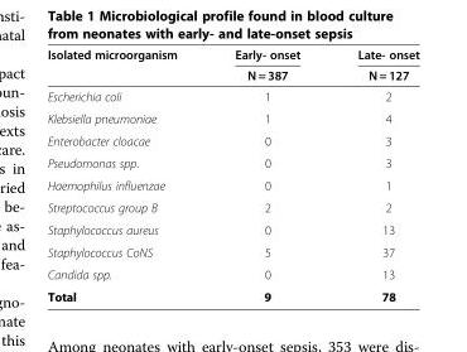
<table><thead><tr><td rowspan="2">Isolated microorganism</td><td rowspan="2">Early- onset N = 387</td><td rowspan="2">Late- onset N = 127</td></tr><tr></tr></thead><tbody><tr><td>Escherichia coli</td><td>1</td><td>2</td></tr><tr><td>Klebsiella pneumoniae</td><td>1</td><td>4</td></tr><tr><td>Enterobacter cloacae</td><td>0</td><td>3</td></tr><tr><td>Pseudomonas spp.</td><td>0</td><td>3</td></tr><tr><td>Haemophilus influenzae</td><td>0</td><td>1</td></tr><tr><td>Streptococcus group B</td><td>2</td><td>2</td></tr><tr><td>Staphylococcus aureus</td><td>0</td><td>13</td></tr><tr><td>Staphylococcus CoNS</td><td>5</td><td>37</td></tr><tr><td>Candida spp.</td><td>0</td><td>13</td></tr><tr><td>Total</td><td>9</td><td>78</td></tr></tbody></table>